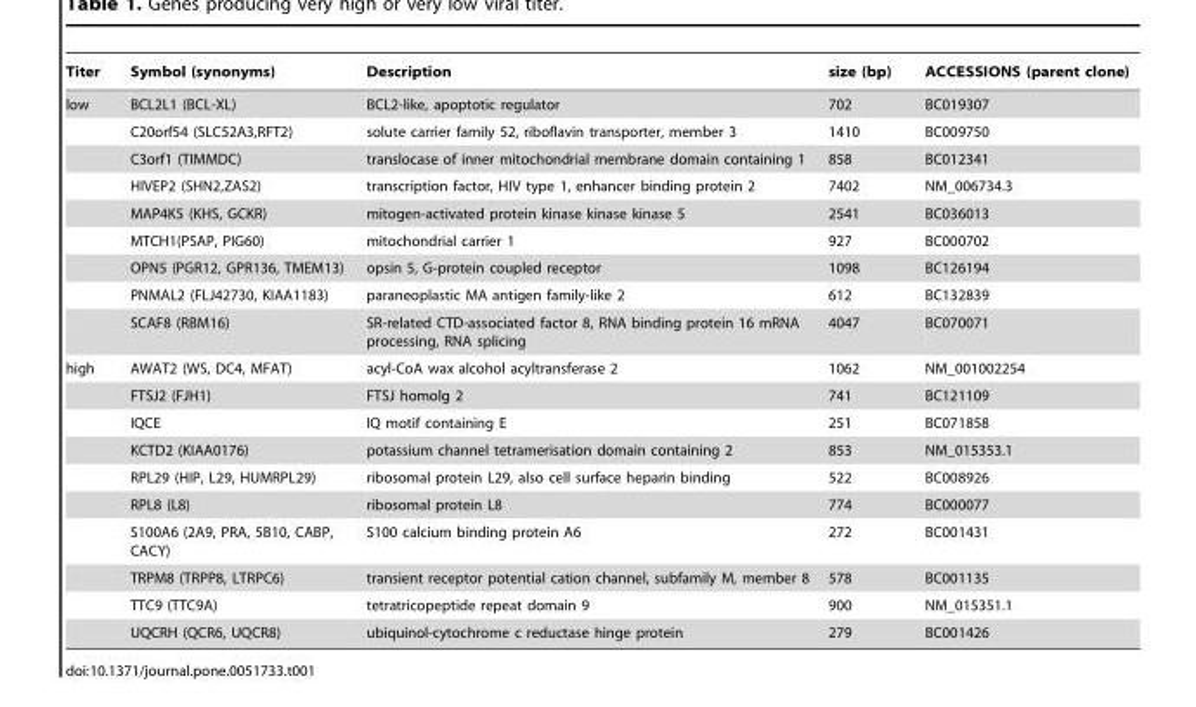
<table><thead><tr><td>Titer</td><td>Symbol (synonyms)</td><td>Description</td><td>size (bp)</td><td>ACCESSIONS (parent clone)</td></tr></thead><tbody><tr><td rowspan="9">low</td><td>BCL2L1 (BCL-XL)</td><td>BCL2-like, apoptotic regulator</td><td>702</td><td>BC019307</td></tr><tr><td>C20orf54 (SLC52A3,RFT2)</td><td>solute carrier family 52, riboflavin transporter, member 3</td><td>1410</td><td>BC009750</td></tr><tr><td>C3orf1 (TIMMDC)</td><td>translocase of inner mitochondrial membrane domain containing 1</td><td>858</td><td>BC012341</td></tr><tr><td>HIVEP2 (SHN2,ZAS2)</td><td>transcription factor, HIV type 1, enhancer binding protein 2</td><td>7402</td><td>NM_006734.3</td></tr><tr><td>MAP4K5 (KHS, GCKR)</td><td>mitogen-activated protein kinase kinase kinase 5</td><td>2541</td><td>BC036013</td></tr><tr><td>MTCH1(PSAP, PIG60)</td><td>mitochondrial carrier 1</td><td>927</td><td>BC000702</td></tr><tr><td>OPN5 (PGR12, GPR136, TMEM13)</td><td>opsin 5, G-protein coupled receptor</td><td>1098</td><td>BC126194</td></tr><tr><td>PNMAL2 (FLJ42730, KIAA1183)</td><td>paraneoplastic MA antigen family-like 2</td><td>612</td><td>BC132839</td></tr><tr><td>SCAF8 (RBM16)</td><td>SR-related CTD-associated factor 8, RNA binding protein 16 mRNA processing, RNA splicing</td><td>4047</td><td>BC070071</td></tr><tr><td rowspan="10">high</td><td>AWAT2 (WS, DC4, MFAT)</td><td>acyl-CoA wax alcohol acyltransferase 2</td><td>1062</td><td>NM_001002254</td></tr><tr><td>FTSJ2 (FJH1)</td><td>FTSJ homolg 2</td><td>741</td><td>BC121109</td></tr><tr><td>IQCE</td><td>IQ motif containing E</td><td>251</td><td>BC071858</td></tr><tr><td>KCTD2 (KIAA0176)</td><td>potassium channel tetramerisation domain containing 2</td><td>853</td><td>NM_015353.1</td></tr><tr><td>RPL29 (HIP, L29, HUMRPL29)</td><td>ribosomal protein L29, also cell surface heparin binding</td><td>522</td><td>BC008926</td></tr><tr><td>RPL8 (L8)</td><td>ribosomal protein L8</td><td>774</td><td>BC000077</td></tr><tr><td>S100A6 (2A9, PRA, 5B10, CABP, CACY)</td><td>S100 calcium binding protein A6</td><td>272</td><td>BC001431</td></tr><tr><td>TRPM8 (TRPP8, LTRPC6)</td><td>transient receptor potential cation channel, subfamily M, member 8</td><td>578</td><td>BC001135</td></tr><tr><td>TTC9 (TTC9A)</td><td>tetratricopeptide repeat domain 9</td><td>900</td><td>NM_015351.1</td></tr><tr><td>UQCRH (QCR6, UQCR8)</td><td>ubiquinol-cytochrome c reductase hinge protein</td><td>279</td><td>BC001426</td></tr></tbody></table>